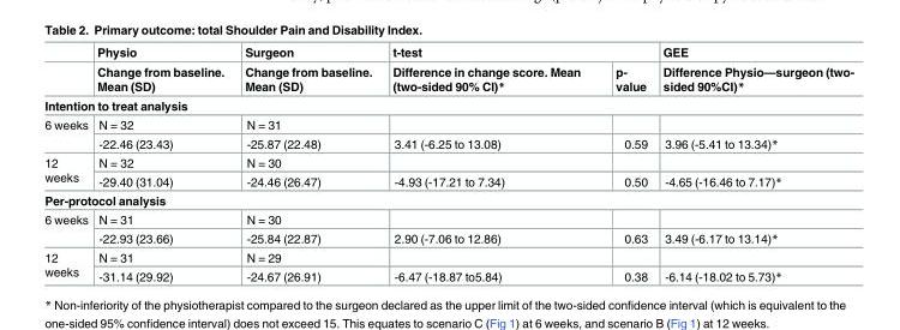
<table><thead><tr><td rowspan="2"></td><td rowspan="2">Physio Change from baseline. Mean (SD)</td><td rowspan="2">Surgeon Change from baseline. Mean (SD)</td><td colspan="2">t-test</td><td rowspan="2">GEE Difference Physio—surgeon (two- sided 90%CI)*</td></tr><tr><td>Difference in change score. Mean (two-sided 90% CI)*</td><td>p- value</td></tr></thead><tbody><tr><td colspan="6">Intention to treat analysis</td></tr><tr><td rowspan="2">6 weeks</td><td>N = 32</td><td>N = 31</td><td></td><td></td><td></td></tr><tr><td>-22.46 (23.43)</td><td>-25.87 (22.48)</td><td>3.41 (-6.25 to 13.08)</td><td>0.59</td><td>3.96 (-5.41 to 13.34)*</td></tr><tr><td rowspan="2">12 weeks</td><td>N = 32</td><td>N = 30</td><td></td><td></td><td></td></tr><tr><td>-29.40 (31.04)</td><td>-24.46 (26.47)</td><td>-4.93 (-17.21 to 7.34)</td><td>0.50</td><td>-4.65 (-16.46 to 7.17)*</td></tr><tr><td colspan="6">Per-protocol analysis</td></tr><tr><td rowspan="2">6 weeks</td><td>N = 31</td><td>N = 30</td><td></td><td></td><td></td></tr><tr><td>-22.93 (23.66)</td><td>-25.84 (22.87)</td><td>2.90 (-7.06 to 12.86)</td><td>0.63</td><td>3.49 (-6.17 to 13.14)*</td></tr><tr><td rowspan="2">12 weeks</td><td>N = 31</td><td>N = 29</td><td></td><td></td><td></td></tr><tr><td>-31.14 (29.92)</td><td>-24.67 (26.91)</td><td>-6.47 (-18.87 to5.84)</td><td>0.38</td><td>-6.14 (-18.02 to 5.73)*</td></tr></tbody></table>